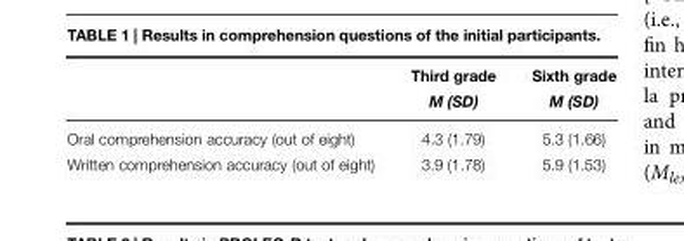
<table><thead><tr><td rowspan="2"></td><td rowspan="2">Third grade M (SD)</td><td rowspan="2">Sixth grade M (SD)</td></tr><tr></tr></thead><tbody><tr><td>Oral comprehension accuracy (out of eight)</td><td>4.3 (1.79)</td><td>5.3 (1.66)</td></tr><tr><td>Written comprehension accuracy (out of eight)</td><td>3.9 (1.78)</td><td>5.9 (1.53)</td></tr></tbody></table>